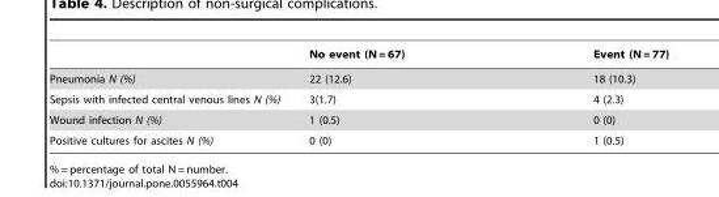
<table><thead><tr><td></td><td>No event (N = 67)</td><td>Event (N = 77)</td></tr></thead><tbody><tr><td>Pneumonia N (%)</td><td>22 (12.6)</td><td>18 (10.3)</td></tr><tr><td>Sepsis with infected central venous lines N (%)</td><td>3(1.7)</td><td>4 (2.3)</td></tr><tr><td>Wound infection N (%)</td><td>1 (0.5)</td><td>0 (0)</td></tr><tr><td>Positive cultures for ascites N (%)</td><td>0 (0)</td><td>1 (0.5)</td></tr></tbody></table>